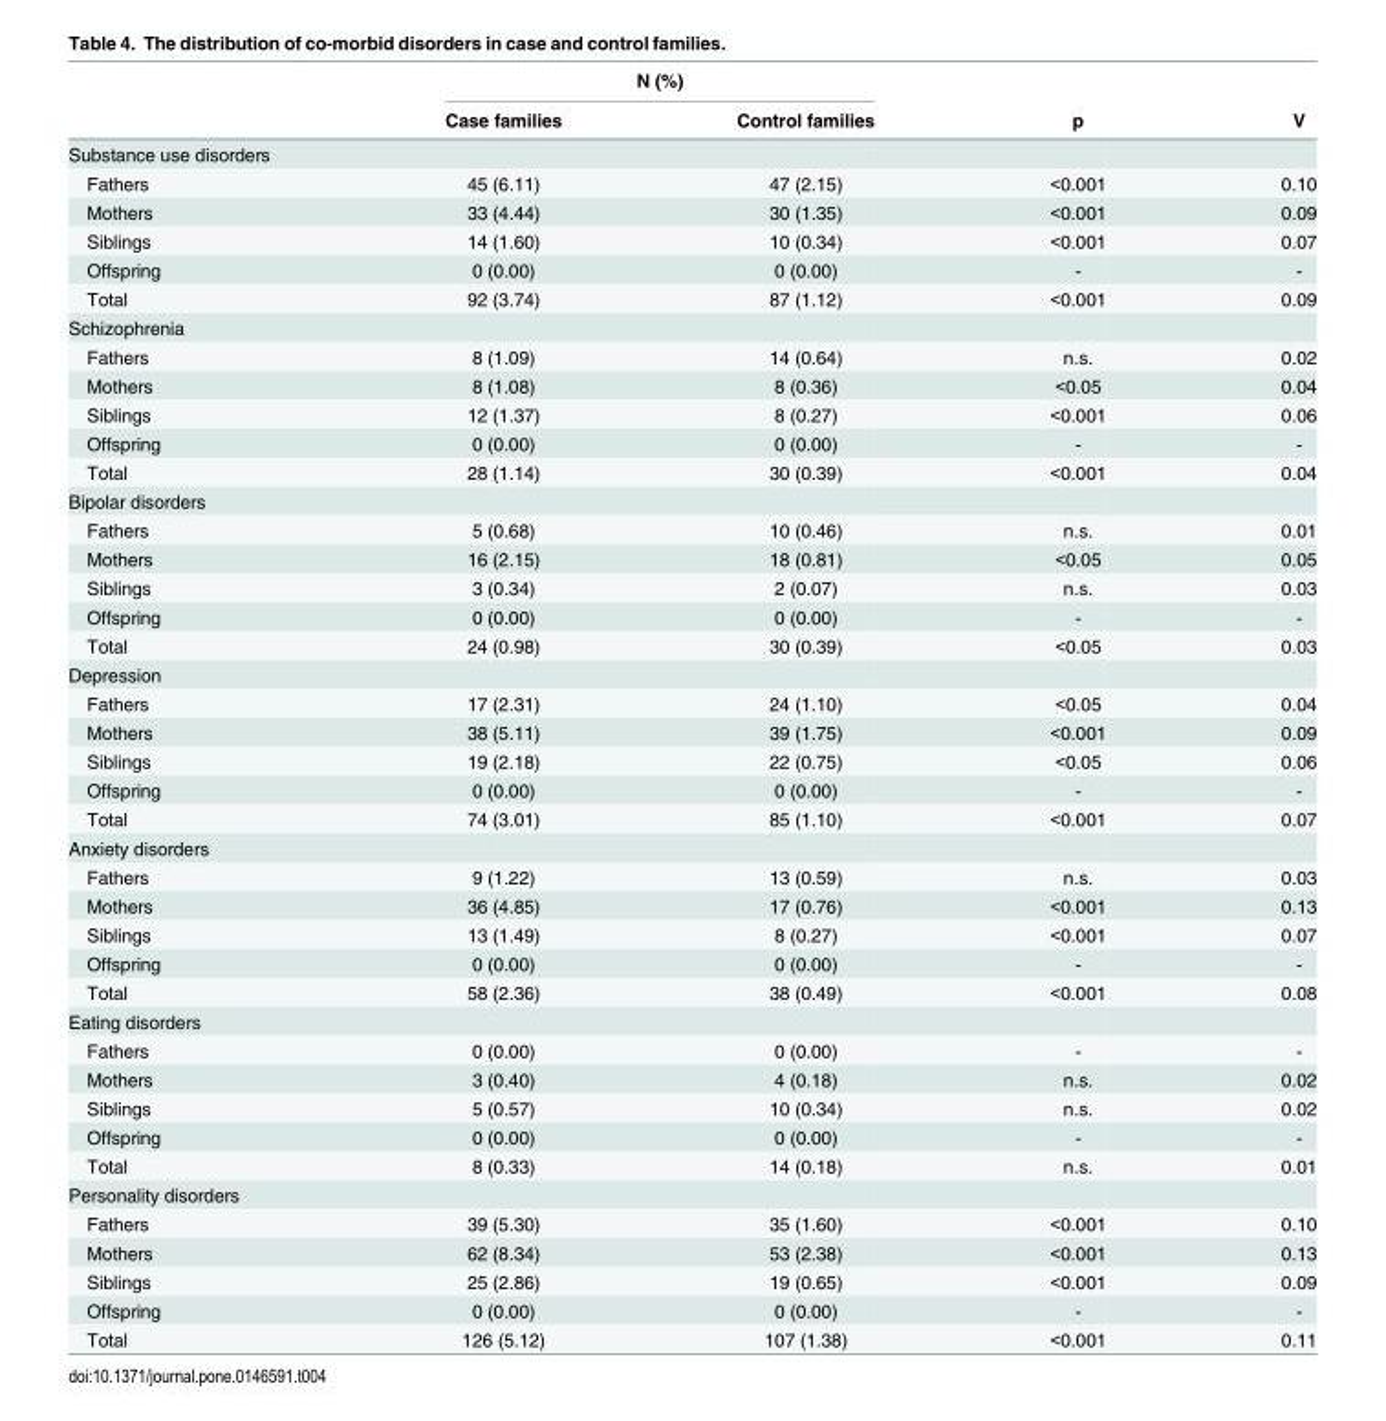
<table><thead><tr><td rowspan="2"></td><td colspan="2">N (%)</td><td rowspan="2">p</td><td rowspan="2">V</td></tr><tr><td>Case families</td><td>Control families</td></tr></thead><tbody><tr><td colspan="5">Substance use disorders</td></tr><tr><td>Fathers</td><td>45 (6.11)</td><td>47 (2.15)</td><td>&lt;0.001</td><td>0.10</td></tr><tr><td>Mothers</td><td>33 (4.44)</td><td>30 (1.35)</td><td>&lt;0.001</td><td>0.09</td></tr><tr><td>Siblings</td><td>14 (1.60)</td><td>10 (0.34)</td><td>&lt;0.001</td><td>0.07</td></tr><tr><td>Offspring</td><td>0 (0.00)</td><td>0 (0.00)</td><td>-</td><td>-</td></tr><tr><td>Total</td><td>92 (3.74)</td><td>87 (1.12)</td><td>&lt;0.001</td><td>0.09</td></tr><tr><td colspan="5">Schizophrenia</td></tr><tr><td>Fathers</td><td>8 (1.09)</td><td>14 (0.64)</td><td>n.s.</td><td>0.02</td></tr><tr><td>Mothers</td><td>8 (1.08)</td><td>8 (0.36)</td><td>&lt;0.05</td><td>0.04</td></tr><tr><td>Siblings</td><td>12 (1.37)</td><td>8 (0.27)</td><td>&lt;0.001</td><td>0.06</td></tr><tr><td>Offspring</td><td>0 (0.00)</td><td>0 (0.00)</td><td>-</td><td>-</td></tr><tr><td>Total</td><td>28 (1.14)</td><td>30 (0.39)</td><td>&lt;0.001</td><td>0.04</td></tr><tr><td colspan="5">Bipolar disorders</td></tr><tr><td>Fathers</td><td>5 (0.68)</td><td>10 (0.46)</td><td>n.s.</td><td>0.01</td></tr><tr><td>Mothers</td><td>16 (2.15)</td><td>18 (0.81)</td><td>&lt;0.05</td><td>0.05</td></tr><tr><td>Siblings</td><td>3 (0.34)</td><td>2 (0.07)</td><td>n.s.</td><td>0.03</td></tr><tr><td>Offspring</td><td>0 (0.00)</td><td>0 (0.00)</td><td>-</td><td>-</td></tr><tr><td>Total</td><td>24 (0.98)</td><td>30 (0.39)</td><td>&lt;0.05</td><td>0.03</td></tr><tr><td colspan="5">Depression</td></tr><tr><td>Fathers</td><td>17 (2.31)</td><td>24 (1.10)</td><td>&lt;0.05</td><td>0.04</td></tr><tr><td>Mothers</td><td>38 (5.11)</td><td>39 (1.75)</td><td>&lt;0.001</td><td>0.09</td></tr><tr><td>Siblings</td><td>19 (2.18)</td><td>22 (0.75)</td><td>&lt;0.05</td><td>0.06</td></tr><tr><td>Offspring</td><td>0 (0.00)</td><td>0 (0.00)</td><td>-</td><td>-</td></tr><tr><td>Total</td><td>74 (3.01)</td><td>85 (1.10)</td><td>&lt;0.001</td><td>0.07</td></tr><tr><td colspan="5">Anxiety disorders</td></tr><tr><td>Fathers</td><td>9 (1.22)</td><td>13 (0.59)</td><td>n.s.</td><td>0.03</td></tr><tr><td>Mothers</td><td>36 (4.85)</td><td>17 (0.76)</td><td>&lt;0.001</td><td>0.13</td></tr><tr><td>Siblings</td><td>13 (1.49)</td><td>8 (0.27)</td><td>&lt;0.001</td><td>0.07</td></tr><tr><td>Offspring</td><td>0 (0.00)</td><td>0 (0.00)</td><td>-</td><td>-</td></tr><tr><td>Total</td><td>58 (2.36)</td><td>38 (0.49)</td><td>&lt;0.001</td><td>0.08</td></tr><tr><td colspan="5">Eating disorders</td></tr><tr><td>Fathers</td><td>0 (0.00)</td><td>0 (0.00)</td><td>-</td><td>-</td></tr><tr><td>Mothers</td><td>3 (0.40)</td><td>4 (0.18)</td><td>n.s.</td><td>0.02</td></tr><tr><td>Siblings</td><td>5 (0.57)</td><td>10 (0.34)</td><td>n.s.</td><td>0.02</td></tr><tr><td>Offspring</td><td>0 (0.00)</td><td>0 (0.00)</td><td>-</td><td>-</td></tr><tr><td>Total</td><td>8 (0.33)</td><td>14 (0.18)</td><td>n.s.</td><td>0.01</td></tr><tr><td colspan="5">Personality disorders</td></tr><tr><td>Fathers</td><td>39 (5.30)</td><td>35 (1.60)</td><td>&lt;0.001</td><td>0.10</td></tr><tr><td>Mothers</td><td>62 (8.34)</td><td>53 (2.38)</td><td>&lt;0.001</td><td>0.13</td></tr><tr><td>Siblings</td><td>25 (2.86)</td><td>19 (0.65)</td><td>&lt;0.001</td><td>0.09</td></tr><tr><td>Offspring</td><td>0 (0.00)</td><td>0 (0.00)</td><td>-</td><td>-</td></tr><tr><td>Total</td><td>126 (5.12)</td><td>107 (1.38)</td><td>&lt;0.001</td><td>0.11</td></tr></tbody></table>